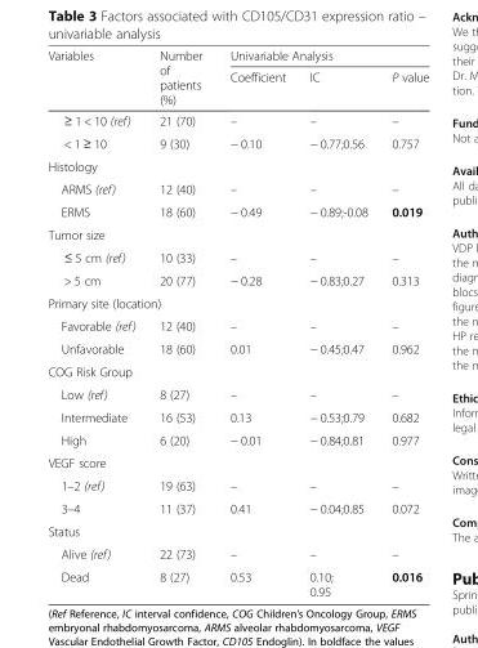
<table><thead><tr><td rowspan="2">Variables</td><td rowspan="2">Number of patients (%)</td><td colspan="3">Univariable Analysis</td></tr><tr><td>Coefficient</td><td>IC</td><td>P value</td></tr></thead><tbody><tr><td>≥ 1 &lt; 10 (ref)</td><td>21 (70)</td><td>–</td><td>–</td><td>–</td></tr><tr><td>&lt; 1 ≥ 10</td><td>9 (30)</td><td>− 0.10</td><td>− 0.77;0.56</td><td>0.757</td></tr><tr><td colspan="5">Histology</td></tr><tr><td>ARMS (ref)</td><td>12 (40)</td><td>–</td><td>–</td><td>–</td></tr><tr><td>ERMS</td><td>18 (60)</td><td>− 0.49</td><td>− 0.89;-0.08</td><td>0.019</td></tr><tr><td colspan="5">Tumor size</td></tr><tr><td>≤ 5 cm (ref)</td><td>10 (33)</td><td>–</td><td>–</td><td>–</td></tr><tr><td>&gt; 5 cm</td><td>20 (77)</td><td>− 0.28</td><td>− 0.83;0.27</td><td>0.313</td></tr><tr><td colspan="5">Primary site (location)</td></tr><tr><td>Favorable (ref)</td><td>12 (40)</td><td>–</td><td>–</td><td>–</td></tr><tr><td>Unfavorable</td><td>18 (60)</td><td>0.01</td><td>− 0.45;0.47</td><td>0.962</td></tr><tr><td colspan="5">COG Risk Group</td></tr><tr><td>Low (ref)</td><td>8 (27)</td><td>–</td><td>–</td><td>–</td></tr><tr><td>Intermediate</td><td>16 (53)</td><td>0.13</td><td>− 0.53;0.79</td><td>0.682</td></tr><tr><td>High</td><td>6 (20)</td><td>− 0.01</td><td>− 0.84;0.81</td><td>0.977</td></tr><tr><td colspan="5">VEGF score</td></tr><tr><td>1–2 (ref)</td><td>19 (63)</td><td>–</td><td>–</td><td>–</td></tr><tr><td>3–4</td><td>11 (37)</td><td>0.41</td><td>− 0.04;0.85</td><td>0.072</td></tr><tr><td colspan="5">Status</td></tr><tr><td>Alive (ref)</td><td>22 (73)</td><td>–</td><td>–</td><td>–</td></tr><tr><td>Dead</td><td>8 (27)</td><td>0.53</td><td>0.10; 0.95</td><td>0.016</td></tr></tbody></table>